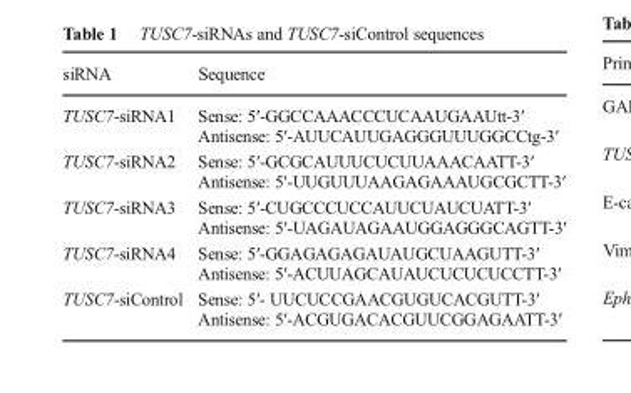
<table><thead><tr><td>siRNA</td><td>Sequence</td></tr></thead><tbody><tr><td>TUSC7-siRNA1</td><td>Sense: 5′-GGCCAAACCCUCAAUGAAUtt-3′ Antisense: 5′-AUUCAUUGAGGGUUUGGCCtg-3′</td></tr><tr><td>TUSC7-siRNA2</td><td>Sense: 5′-GCGCAUUUCUCUUAAACAATT-3′ Antisense: 5′-UUGUUUAAGAGAAAUGCGCTT-3′</td></tr><tr><td>TUSC7-siRNA3</td><td>Sense: 5′-CUGCCCUCCAUUCUAUCUATT-3′ Antisense: 5′-UAGAUAGAAUGGAGGGCAGTT-3′</td></tr><tr><td>TUSC7-siRNA4</td><td>Sense: 5′-GGAGAGAGAUAUGCUAAGUTT-3′ Antisense: 5′-ACUUAGCAUAUCUCUCUCCTT-3′</td></tr><tr><td>TUSC7-siControl</td><td>Sense: 5′- UUCUCCGAACGUGUCACGUTT-3′ Antisense: 5′-ACGUGACACGUUCGGAGAATT-3′</td></tr></tbody></table>